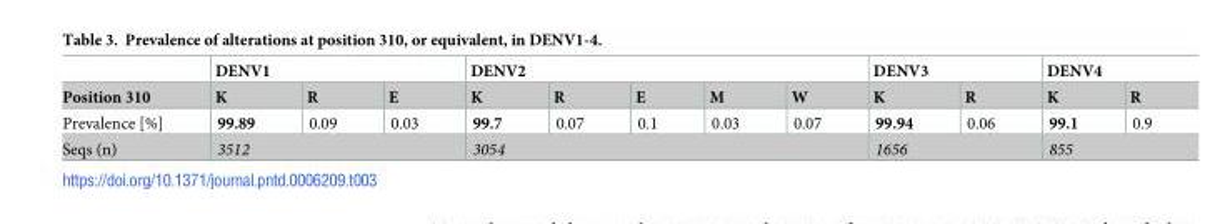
<table><thead><tr><td rowspan="2">Position 310</td><td colspan="3">DENV1</td><td colspan="5">DENV2</td><td colspan="2">DENV3</td><td colspan="2">DENV4</td></tr><tr><td>K</td><td>R</td><td>E</td><td>K</td><td>R</td><td>E</td><td>M</td><td>W</td><td>K</td><td>R</td><td>K</td><td>R</td></tr></thead><tbody><tr><td>Prevalence [%]</td><td>99.89</td><td>0.09</td><td>0.03</td><td>99.7</td><td>0.07</td><td>0.1</td><td>0.03</td><td>0.07</td><td>99.94</td><td>0.06</td><td>99.1</td><td>0.9</td></tr><tr><td>Seqs (n)</td><td colspan="3">3512</td><td colspan="5">3054</td><td colspan="2">1656</td><td colspan="2">855</td></tr></tbody></table>